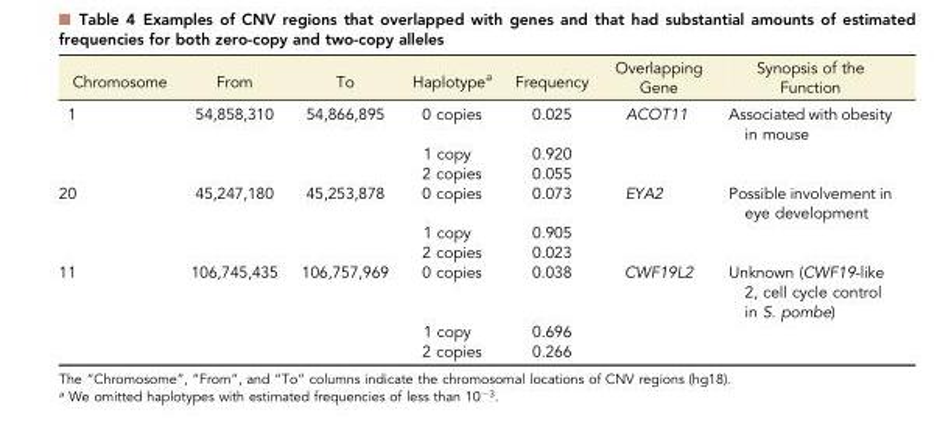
<table><thead><tr><td>Chromosome</td><td>From</td><td>To</td><td>Haplotypea</td><td>Frequency</td><td>Overlapping Gene</td><td>Synopsis of the Function</td></tr></thead><tbody><tr><td rowspan="3">1</td><td>54,858,310</td><td>54,866,895</td><td>0 copies</td><td>0.025</td><td>ACOT11</td><td>Associated with obesity in mouse</td></tr><tr><td></td><td></td><td>1 copy</td><td>0.920</td><td></td><td></td></tr><tr><td></td><td></td><td>2 copies</td><td>0.055</td><td></td><td></td></tr><tr><td rowspan="3">20</td><td>45,247,180</td><td>45,253,878</td><td>0 copies</td><td>0.073</td><td>EYA2</td><td>Possible involvement in eye development</td></tr><tr><td></td><td></td><td>1 copy</td><td>0.905</td><td></td><td></td></tr><tr><td></td><td></td><td>2 copies</td><td>0.023</td><td></td><td></td></tr><tr><td rowspan="3">11</td><td>106,745,435</td><td>106,757,969</td><td>0 copies</td><td>0.038</td><td>CWF19L2</td><td>Unknown (CWF19-like 2, cell cycle control in S. pombe)</td></tr><tr><td></td><td></td><td>1 copy</td><td>0.696</td><td></td><td></td></tr><tr><td></td><td></td><td>2 copies</td><td>0.266</td><td></td><td></td></tr></tbody></table>